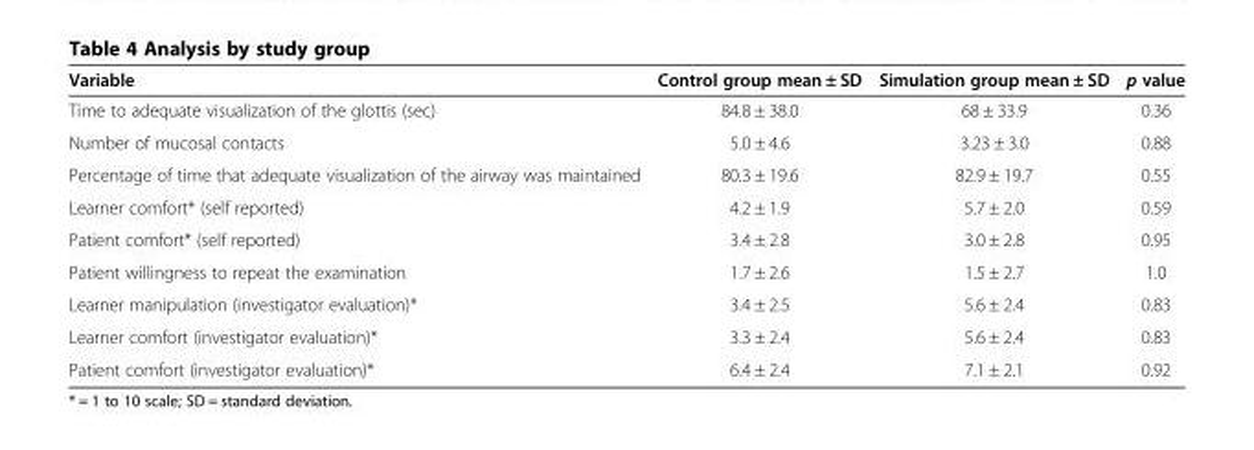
<table><thead><tr><td>Variable</td><td>Control group mean ± SD</td><td>Simulation group mean ± SD</td><td>p value</td></tr></thead><tbody><tr><td>Time to adequate visualization of the glottis (sec)</td><td>84.8 ± 38.0</td><td>68 ± 33.9</td><td>0.36</td></tr><tr><td>Number of mucosal contacts</td><td>5.0 ± 4.6</td><td>3.23 ± 3.0</td><td>0.88</td></tr><tr><td>Percentage of time that adequate visualization of the airway was maintained</td><td>80.3 ± 19.6</td><td>82.9 ± 19.7</td><td>0.55</td></tr><tr><td>Learner comfort* (self reported)</td><td>4.2 ± 1.9</td><td>5.7 ± 2.0</td><td>0.59</td></tr><tr><td>Patient comfort* (self reported)</td><td>3.4 ± 2.8</td><td>3.0 ± 2.8</td><td>0.95</td></tr><tr><td>Patient willingness to repeat the examination</td><td>1.7 ± 2.6</td><td>1.5 ± 2.7</td><td>1.0</td></tr><tr><td>Learner manipulation (investigator evaluation)*</td><td>3.4 ± 2.5</td><td>5.6 ± 2.4</td><td>0.83</td></tr><tr><td>Learner comfort (investigator evaluation)*</td><td>3.3 ± 2.4</td><td>5.6 ± 2.4</td><td>0.83</td></tr><tr><td>Patient comfort (investigator evaluation)*</td><td>6.4 ± 2.4</td><td>7.1 ± 2.1</td><td>0.92</td></tr></tbody></table>